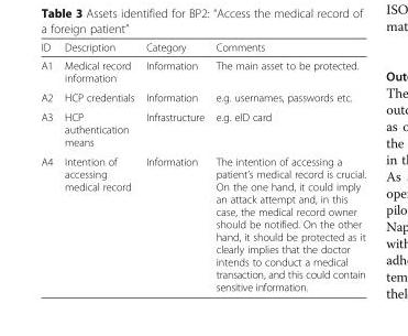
<table><thead><tr><td>ID</td><td>Description</td><td>Category</td><td>Comments</td></tr></thead><tbody><tr><td>A1</td><td>Medical record information</td><td>Information</td><td>The main asset to be protected.</td></tr><tr><td>A2</td><td>HCP credentials</td><td>Information</td><td>e.g. usernames, passwords etc.</td></tr><tr><td>A3</td><td>HCP authentication means</td><td>Infrastructure</td><td>e.g. eID card</td></tr><tr><td>A4</td><td>Intention of accessing medical record</td><td>Information</td><td>The intention of accessing a patient’s medical record is crucial. On the one hand, it could imply an attack attempt and, in this case, the medical record owner should be notified. On the other hand, it should be protected as it clearly implies that the doctor intends to conduct a medical transaction, and this could contain sensitive information.</td></tr></tbody></table>